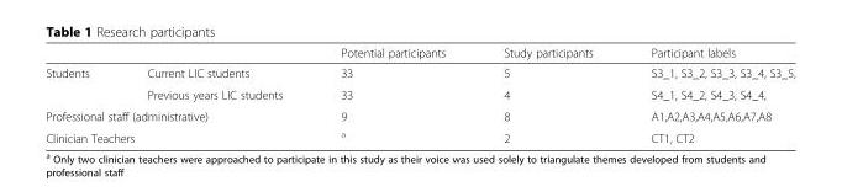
<table><thead><tr><td></td><td></td><td>Potential participants</td><td>Study participants</td><td>Participant labels</td></tr></thead><tbody><tr><td rowspan="2">Students</td><td>Current LIC students</td><td>33</td><td>5</td><td>S3_1, S3_2, S3_3, S3_4, S3_5,</td></tr><tr><td>Previous years LIC students</td><td>33</td><td>4</td><td>S4_1, S4_2, S4_3, S4_4,</td></tr><tr><td colspan="2">Professional staff (administrative)</td><td>9</td><td>8</td><td>A1,A2,A3,A4,A5,A6,A7,A8</td></tr><tr><td colspan="2">Clinician Teachers</td><td><sup>a</sup></td><td>2</td><td>CT1, CT2</td></tr></tbody></table>